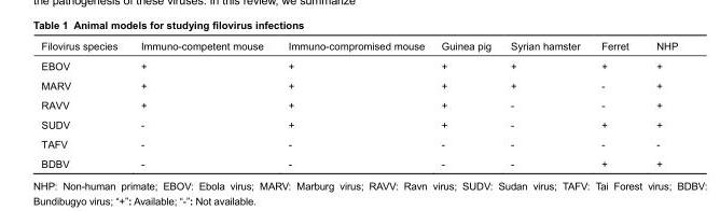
<table><thead><tr><td>Filovirus species</td><td>Immuno-competent mouse</td><td>Immuno-compromised mouse</td><td>Guinea pig</td><td>Syrian hamster</td><td>Ferret</td><td>NHP</td></tr></thead><tbody><tr><td>EBOV</td><td>+</td><td>+</td><td>+</td><td>+</td><td>+</td><td>+</td></tr><tr><td>MARV</td><td>+</td><td>+</td><td>+</td><td>+</td><td>-</td><td>+</td></tr><tr><td>RAVV</td><td>+</td><td>+</td><td>+</td><td>-</td><td>-</td><td>+</td></tr><tr><td>SUDV</td><td>-</td><td>+</td><td>+</td><td>-</td><td>+</td><td>+</td></tr><tr><td>TAFV</td><td>-</td><td>-</td><td>-</td><td>-</td><td>-</td><td>-</td></tr><tr><td>BDBV</td><td>-</td><td>-</td><td>-</td><td>-</td><td>+</td><td>+</td></tr></tbody></table>